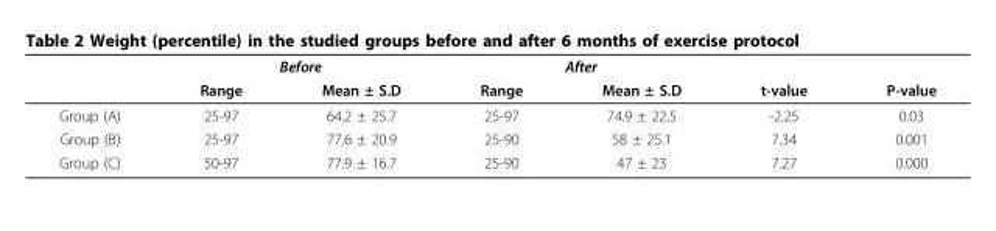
<table><thead><tr><td rowspan="2"></td><td colspan="2">Before</td><td colspan="2">After</td><td rowspan="2">t-value</td><td rowspan="2">P-value</td></tr><tr><td>Range</td><td>Mean ± S.D</td><td>Range</td><td>Mean ± S.D</td></tr></thead><tbody><tr><td>Group (A)</td><td>25-97</td><td>64.2 ± 25.7</td><td>25-97</td><td>74.9 ± 22.5</td><td>-2.25</td><td>0.03</td></tr><tr><td>Group (B)</td><td>25-97</td><td>77.6 ± 20.9</td><td>25-90</td><td>58 ± 25.1</td><td>7.34</td><td>0.001</td></tr><tr><td>Group (C)</td><td>50-97</td><td>77.9 ± 16.7</td><td>25-90</td><td>47 ± 23</td><td>7.27</td><td>0.000</td></tr></tbody></table>